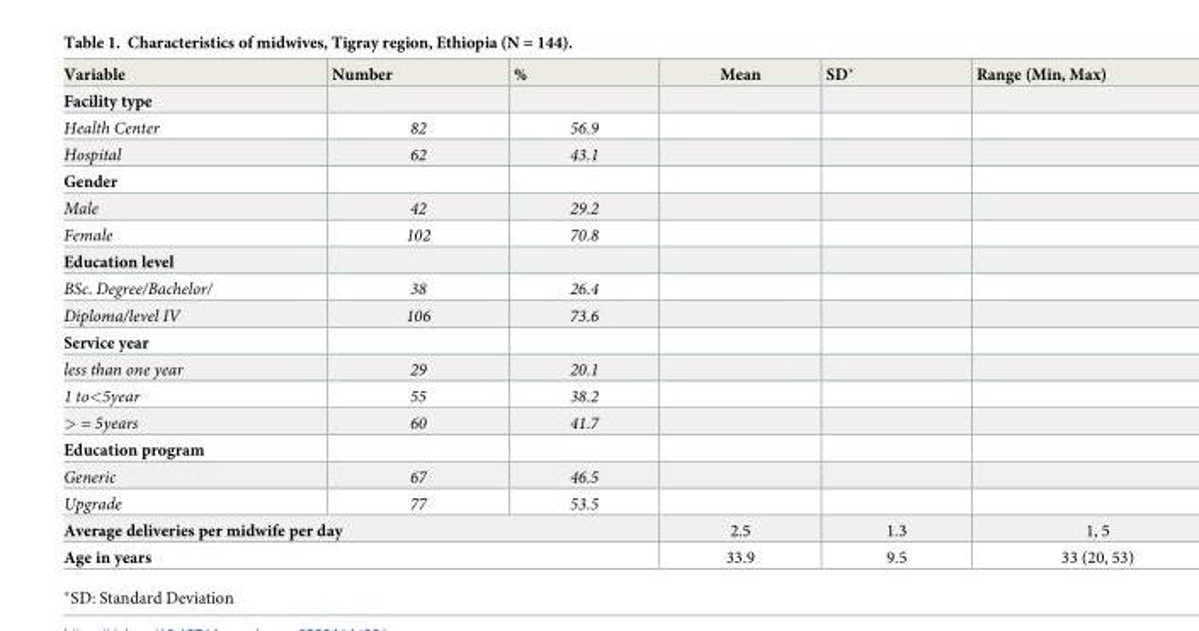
<table><thead><tr><td>Variable</td><td>Number</td><td>%</td><td>Mean</td><td>SD*</td><td>Range (Min, Max)</td></tr></thead><tbody><tr><td colspan="6">Facility type</td></tr><tr><td>Health Center</td><td>82</td><td>56.9</td><td></td><td></td><td></td></tr><tr><td>Hospital</td><td>62</td><td>43.1</td><td></td><td></td><td></td></tr><tr><td colspan="6">Gender</td></tr><tr><td>Male</td><td>42</td><td>29.2</td><td></td><td></td><td></td></tr><tr><td>Female</td><td>102</td><td>70.8</td><td></td><td></td><td></td></tr><tr><td colspan="6">Education level</td></tr><tr><td>BSc. Degree/Bachelor/</td><td>38</td><td>26.4</td><td></td><td></td><td></td></tr><tr><td>Diploma/level IV</td><td>106</td><td>73.6</td><td></td><td></td><td></td></tr><tr><td colspan="6">Service year</td></tr><tr><td>less than one year</td><td>29</td><td>20.1</td><td></td><td></td><td></td></tr><tr><td>1 to&lt;5year</td><td>55</td><td>38.2</td><td></td><td></td><td></td></tr><tr><td>&gt; = 5years</td><td>60</td><td>41.7</td><td></td><td></td><td></td></tr><tr><td colspan="6">Education program</td></tr><tr><td>Generic</td><td>67</td><td>46.5</td><td></td><td></td><td></td></tr><tr><td>Upgrade</td><td>77</td><td>53.5</td><td></td><td></td><td></td></tr><tr><td colspan="3">Average deliveries per midwife per day</td><td>2.5</td><td>1.3</td><td>1, 5</td></tr><tr><td colspan="3">Age in years</td><td>33.9</td><td>9.5</td><td>33 (20, 53)</td></tr></tbody></table>